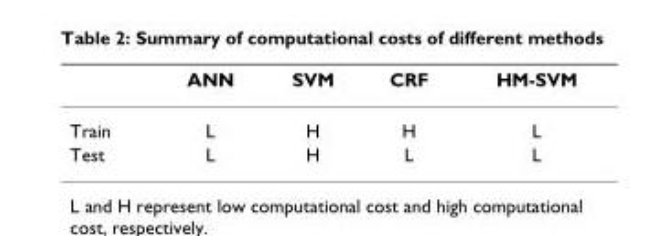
<table><thead><tr><td></td><td>ANN</td><td>SVM</td><td>CRF</td><td>HM-SVM</td></tr></thead><tbody><tr><td>Train</td><td>L</td><td>H</td><td>H</td><td>L</td></tr><tr><td>Test</td><td>L</td><td>H</td><td>L</td><td>L</td></tr></tbody></table>